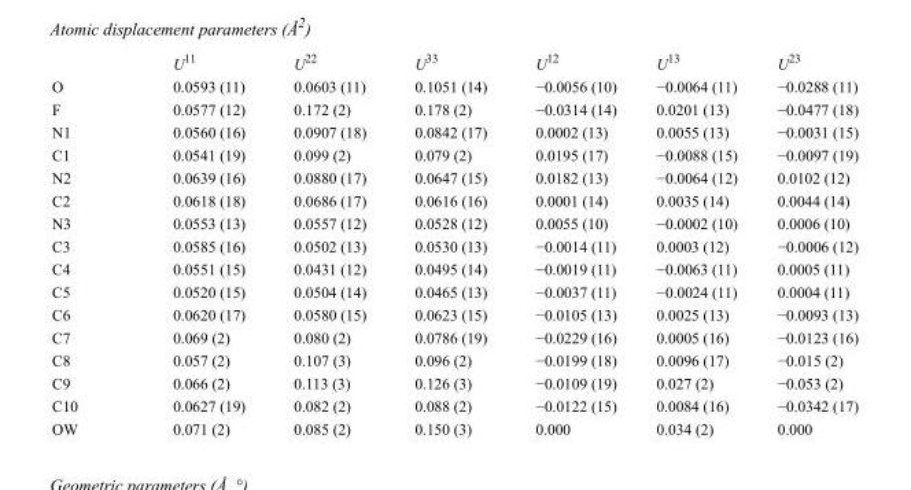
<table><thead><tr><td></td><td>U<sup>11</sup></td><td>U<sup>22</sup></td><td>U<sup>33</sup></td><td>U<sup>12</sup></td><td>U<sup>13</sup></td><td>U<sup>23</sup></td></tr></thead><tbody><tr><td>O</td><td>0.0593 (11)</td><td>0.0603 (11)</td><td>0.1051 (14)</td><td>−0.0056 (10)</td><td>−0.0064 (11)</td><td>−0.0288 (11)</td></tr><tr><td>F</td><td>0.0577 (12)</td><td>0.172 (2)</td><td>0.178 (2)</td><td>−0.0314 (14)</td><td>0.0201 (13)</td><td>−0.0477 (18)</td></tr><tr><td>N1</td><td>0.0560 (16)</td><td>0.0907 (18)</td><td>0.0842 (17)</td><td>0.0002 (13)</td><td>0.0055 (13)</td><td>−0.0031 (15)</td></tr><tr><td>C1</td><td>0.0541 (19)</td><td>0.099 (2)</td><td>0.079 (2)</td><td>0.0195 (17)</td><td>−0.0088 (15)</td><td>−0.0097 (19)</td></tr><tr><td>N2</td><td>0.0639 (16)</td><td>0.0880 (17)</td><td>0.0647 (15)</td><td>0.0182 (13)</td><td>−0.0064 (12)</td><td>0.0102 (12)</td></tr><tr><td>C2</td><td>0.0618 (18)</td><td>0.0686 (17)</td><td>0.0616 (16)</td><td>0.0001 (14)</td><td>0.0035 (14)</td><td>0.0044 (14)</td></tr><tr><td>N3</td><td>0.0553 (13)</td><td>0.0557 (12)</td><td>0.0528 (12)</td><td>0.0055 (10)</td><td>−0.0002 (10)</td><td>0.0006 (10)</td></tr><tr><td>C3</td><td>0.0585 (16)</td><td>0.0502 (13)</td><td>0.0530 (13)</td><td>−0.0014 (11)</td><td>0.0003 (12)</td><td>−0.0006 (12)</td></tr><tr><td>C4</td><td>0.0551 (15)</td><td>0.0431 (12)</td><td>0.0495 (14)</td><td>−0.0019 (11)</td><td>−0.0063 (11)</td><td>0.0005 (11)</td></tr><tr><td>C5</td><td>0.0520 (15)</td><td>0.0504 (14)</td><td>0.0465 (13)</td><td>−0.0037 (11)</td><td>−0.0024 (11)</td><td>0.0004 (11)</td></tr><tr><td>C6</td><td>0.0620 (17)</td><td>0.0580 (15)</td><td>0.0623 (15)</td><td>−0.0105 (13)</td><td>0.0025 (13)</td><td>−0.0093 (13)</td></tr><tr><td>C7</td><td>0.069 (2)</td><td>0.080 (2)</td><td>0.0786 (19)</td><td>−0.0229 (16)</td><td>0.0005 (16)</td><td>−0.0123 (16)</td></tr><tr><td>C8</td><td>0.057 (2)</td><td>0.107 (3)</td><td>0.096 (2)</td><td>−0.0199 (18)</td><td>0.0096 (17)</td><td>−0.015 (2)</td></tr><tr><td>C9</td><td>0.066 (2)</td><td>0.113 (3)</td><td>0.126 (3)</td><td>−0.0109 (19)</td><td>0.027 (2)</td><td>−0.053 (2)</td></tr><tr><td>C10</td><td>0.0627 (19)</td><td>0.082 (2)</td><td>0.088 (2)</td><td>−0.0122 (15)</td><td>0.0084 (16)</td><td>−0.0342 (17)</td></tr><tr><td>OW</td><td>0.071 (2)</td><td>0.085 (2)</td><td>0.150 (3)</td><td>0.000</td><td>0.034 (2)</td><td>0.000</td></tr></tbody></table>